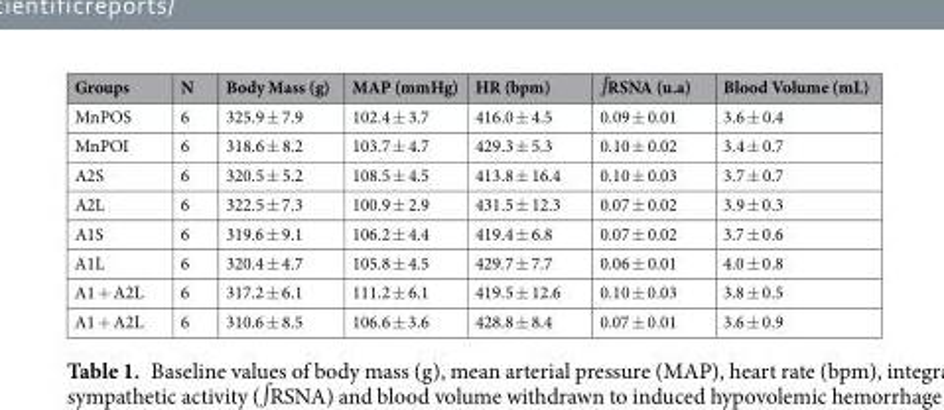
<table><thead><tr><td>Groups</td><td>N</td><td>Body Mass (g)</td><td>MAP (mmHg)</td><td>HR (bpm)</td><td>∫RSNA (u.a)</td><td>Blood Volume (mL)</td></tr></thead><tbody><tr><td>MnPOS</td><td>6</td><td>325.9 ± 7.9</td><td>102.4 ± 3.7</td><td>416.0 ± 4.5</td><td>0.09 ± 0.01</td><td>3.6 ± 0.4</td></tr><tr><td>MnPOI</td><td>6</td><td>318.6 ± 8.2</td><td>103.7 ± 4.7</td><td>429.3 ± 5.3</td><td>0.10 ± 0.02</td><td>3.4 ± 0.7</td></tr><tr><td>A2S</td><td>6</td><td>320.5 ± 5.2</td><td>108.5 ± 4.5</td><td>413.8 ± 16.4</td><td>0.10 ± 0.03</td><td>3.7 ± 0.7</td></tr><tr><td>A2L</td><td>6</td><td>322.5 ± 7.3</td><td>100.9 ± 2.9</td><td>431.5 ± 12.3</td><td>0.07 ± 0.02</td><td>3.9 ± 0.3</td></tr><tr><td>A1S</td><td>6</td><td>319.6 ± 9.1</td><td>106.2 ± 4.4</td><td>419.4 ± 6.8</td><td>0.07 ± 0.02</td><td>3.7 ± 0.6</td></tr><tr><td>A1L</td><td>6</td><td>320.4 ± 4.7</td><td>105.8 ± 4.5</td><td>429.7 ± 7.7</td><td>0.06 ± 0.01</td><td>4.0 ± 0.8</td></tr><tr><td>A1 + A2L</td><td>6</td><td>317.2 ± 6.1</td><td>111.2 ± 6.1</td><td>419.5 ± 12.6</td><td>0.10 ± 0.03</td><td>3.8 ± 0.5</td></tr><tr><td>A1 + A2L</td><td>6</td><td>310.6 ± 8.5</td><td>106.6 ± 3.6</td><td>428.8 ± 8.4</td><td>0.07 ± 0.01</td><td>3.6 ± 0.9</td></tr></tbody></table>